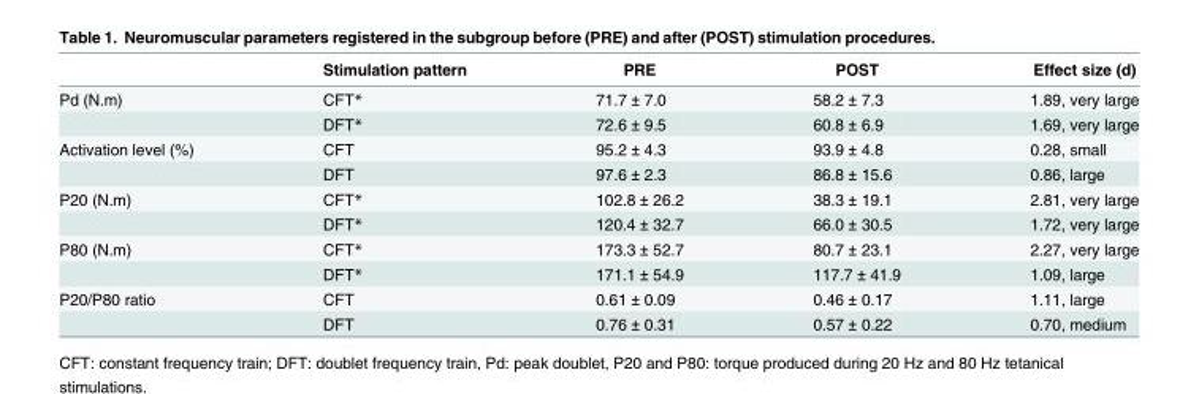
<table><thead><tr><td></td><td>Stimulation pattern</td><td>PRE</td><td>POST</td><td>Effect size (d)</td></tr></thead><tbody><tr><td rowspan="2">Pd (N.m)</td><td>CFT*</td><td>71.7 ± 7.0</td><td>58.2 ± 7.3</td><td>1.89, very large</td></tr><tr><td>DFT*</td><td>72.6 ± 9.5</td><td>60.8 ± 6.9</td><td>1.69, very large</td></tr><tr><td rowspan="2">Activation level (%)</td><td>CFT</td><td>95.2 ± 4.3</td><td>93.9 ± 4.8</td><td>0.28, small</td></tr><tr><td>DFT</td><td>97.6 ± 2.3</td><td>86.8 ± 15.6</td><td>0.86, large</td></tr><tr><td rowspan="2">P20 (N.m)</td><td>CFT*</td><td>102.8 ± 26.2</td><td>38.3 ± 19.1</td><td>2.81, very large</td></tr><tr><td>DFT*</td><td>120.4 ± 32.7</td><td>66.0 ± 30.5</td><td>1.72, very large</td></tr><tr><td rowspan="2">P80 (N.m)</td><td>CFT*</td><td>173.3 ± 52.7</td><td>80.7 ± 23.1</td><td>2.27, very large</td></tr><tr><td>DFT*</td><td>171.1 ± 54.9</td><td>117.7 ± 41.9</td><td>1.09, large</td></tr><tr><td rowspan="2">P20/P80 ratio</td><td>CFT</td><td>0.61 ± 0.09</td><td>0.46 ± 0.17</td><td>1.11, large</td></tr><tr><td>DFT</td><td>0.76 ± 0.31</td><td>0.57 ± 0.22</td><td>0.70, medium</td></tr></tbody></table>